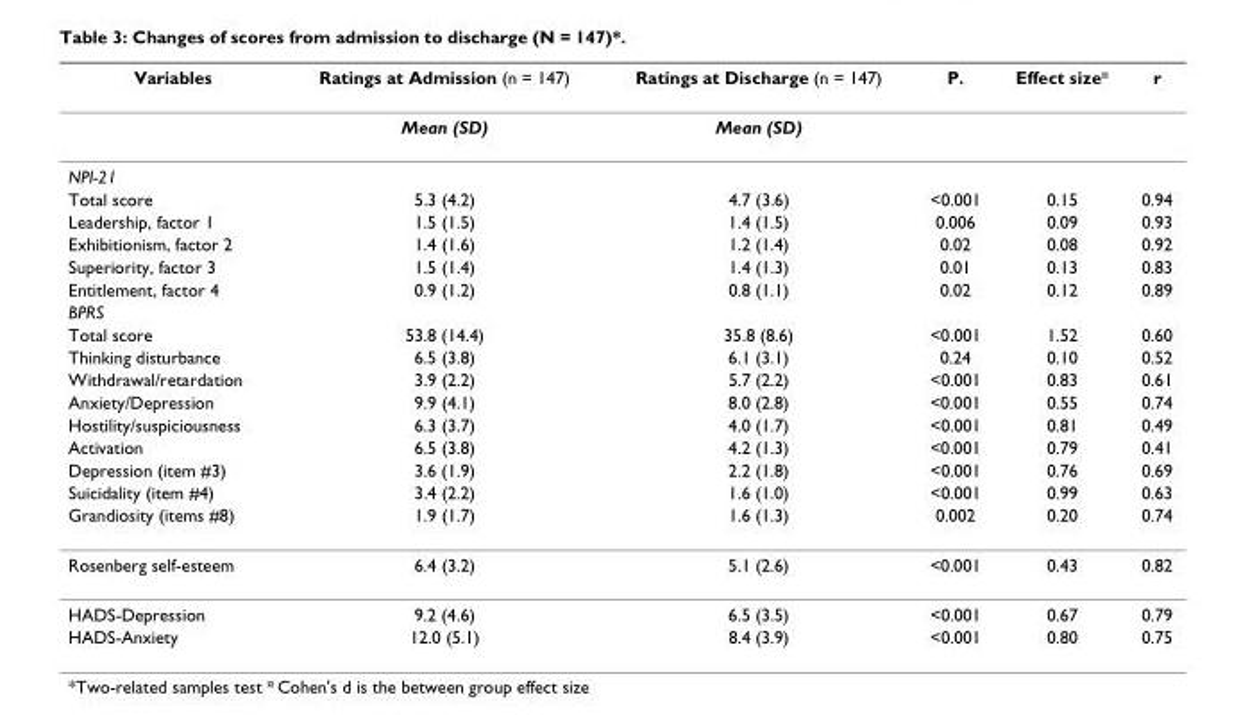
<table><thead><tr><td>Variables</td><td>Ratings at Admission (n = 147)</td><td>Ratings at Discharge (n = 147)</td><td>P.</td><td>Effect size<sup>¤</sup></td><td>r</td></tr></thead><tbody><tr><td></td><td>Mean (SD)</td><td>Mean (SD)</td><td></td><td></td><td></td></tr><tr><td colspan="6">NPI-21</td></tr><tr><td>Total score</td><td>5.3 (4.2)</td><td>4.7 (3.6)</td><td>&lt;0.001</td><td>0.15</td><td>0.94</td></tr><tr><td>Leadership, factor 1</td><td>1.5 (1.5)</td><td>1.4 (1.5)</td><td>0.006</td><td>0.09</td><td>0.93</td></tr><tr><td>Exhibitionism, factor 2</td><td>1.4 (1.6)</td><td>1.2 (1.4)</td><td>0.02</td><td>0.08</td><td>0.92</td></tr><tr><td>Superiority, factor 3</td><td>1.5 (1.4)</td><td>1.4 (1.3)</td><td>0.01</td><td>0.13</td><td>0.83</td></tr><tr><td>Entitlement, factor 4</td><td>0.9 (1.2)</td><td>0.8 (1.1)</td><td>0.02</td><td>0.12</td><td>0.89</td></tr><tr><td colspan="6">BPRS</td></tr><tr><td>Total score</td><td>53.8 (14.4)</td><td>35.8 (8.6)</td><td>&lt;0.001</td><td>1.52</td><td>0.60</td></tr><tr><td>Thinking disturbance</td><td>6.5 (3.8)</td><td>6.1 (3.1)</td><td>0.24</td><td>0.10</td><td>0.52</td></tr><tr><td>Withdrawal/retardation</td><td>3.9 (2.2)</td><td>5.7 (2.2)</td><td>&lt;0.001</td><td>0.83</td><td>0.61</td></tr><tr><td>Anxiety/Depression</td><td>9.9 (4.1)</td><td>8.0 (2.8)</td><td>&lt;0.001</td><td>0.55</td><td>0.74</td></tr><tr><td>Hostility/suspiciousness</td><td>6.3 (3.7)</td><td>4.0 (1.7)</td><td>&lt;0.001</td><td>0.81</td><td>0.49</td></tr><tr><td>Activation</td><td>6.5 (3.8)</td><td>4.2 (1.3)</td><td>&lt;0.001</td><td>0.79</td><td>0.41</td></tr><tr><td>Depression (item #3)</td><td>3.6 (1.9)</td><td>2.2 (1.8)</td><td>&lt;0.001</td><td>0.76</td><td>0.69</td></tr><tr><td>Suicidality (item #4)</td><td>3.4 (2.2)</td><td>1.6 (1.0)</td><td>&lt;0.001</td><td>0.99</td><td>0.63</td></tr><tr><td>Grandiosity (items #8)</td><td>1.9 (1.7)</td><td>1.6 (1.3)</td><td>0.002</td><td>0.20</td><td>0.74</td></tr><tr><td>Rosenberg self-esteem</td><td>6.4 (3.2)</td><td>5.1 (2.6)</td><td>&lt;0.001</td><td>0.43</td><td>0.82</td></tr><tr><td>HADS-Depression</td><td>9.2 (4.6)</td><td>6.5 (3.5)</td><td>&lt;0.001</td><td>0.67</td><td>0.79</td></tr><tr><td>HADS-Anxiety</td><td>12.0 (5.1)</td><td>8.4 (3.9)</td><td>&lt;0.001</td><td>0.80</td><td>0.75</td></tr></tbody></table>